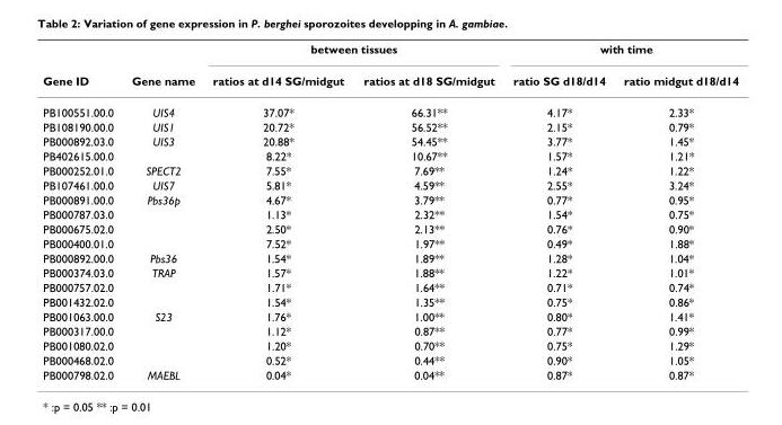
<table><thead><tr><td rowspan="2">Gene ID</td><td rowspan="2">Gene name</td><td colspan="2">between tissues</td><td colspan="2">with time</td></tr><tr><td>ratios at d14 SG/midgut</td><td>ratios at d18 SG/midgut</td><td>ratio SG d18/d14</td><td>ratio midgut d18/d14</td></tr></thead><tbody><tr><td>PB100551.00.0</td><td>UIS4</td><td>37.07*</td><td>66.31**</td><td>4.17*</td><td>2.33*</td></tr><tr><td>PB108190.00.0</td><td>UIS1</td><td>20.72*</td><td>56.52**</td><td>2.15*</td><td>0.79*</td></tr><tr><td>PB000892.03.0</td><td>UIS3</td><td>20.88*</td><td>54.45**</td><td>3.77*</td><td>1.45*</td></tr><tr><td>PB402615.00.0</td><td></td><td>8.22*</td><td>10.67**</td><td>1.57*</td><td>1.21*</td></tr><tr><td>PB000252.01.0</td><td>SPECT2</td><td>7.55*</td><td>7.69**</td><td>1.24*</td><td>1.22*</td></tr><tr><td>PB107461.00.0</td><td>UIS7</td><td>5.81*</td><td>4.59**</td><td>2.55*</td><td>3.24*</td></tr><tr><td>PB000891.00.0</td><td>Pbs36p</td><td>4.67*</td><td>3.79**</td><td>0.77*</td><td>0.95*</td></tr><tr><td>PB000787.03.0</td><td></td><td>1.13*</td><td>2.32**</td><td>1.54*</td><td>0.75*</td></tr><tr><td>PB000675.02.0</td><td></td><td>2.50*</td><td>2.13**</td><td>0.76*</td><td>0.90*</td></tr><tr><td>PB000400.01.0</td><td></td><td>7.52*</td><td>1.97**</td><td>0.49*</td><td>1.88*</td></tr><tr><td>PB000892.00.0</td><td>Pbs36</td><td>1.54*</td><td>1.89**</td><td>1.28*</td><td>1.04*</td></tr><tr><td>PB000374.03.0</td><td>TRAP</td><td>1.57*</td><td>1.88**</td><td>1.22*</td><td>1.01*</td></tr><tr><td>PB000757.02.0</td><td></td><td>1.71*</td><td>1.64**</td><td>0.71*</td><td>0.74*</td></tr><tr><td>PB001432.02.0</td><td></td><td>1.54*</td><td>1.35**</td><td>0.75*</td><td>0.86*</td></tr><tr><td>PB001063.00.0</td><td>S23</td><td>1.76*</td><td>1.00**</td><td>0.80*</td><td>1.41*</td></tr><tr><td>PB000317.00.0</td><td></td><td>1.12*</td><td>0.87**</td><td>0.77*</td><td>0.99*</td></tr><tr><td>PB001080.02.0</td><td></td><td>1.20*</td><td>0.70**</td><td>0.75*</td><td>1.29*</td></tr><tr><td>PB000468.02.0</td><td></td><td>0.52*</td><td>0.44**</td><td>0.90*</td><td>1.05*</td></tr><tr><td>PB000798.02.0</td><td>MAEBL</td><td>0.04*</td><td>0.04**</td><td>0.87*</td><td>0.87*</td></tr></tbody></table>